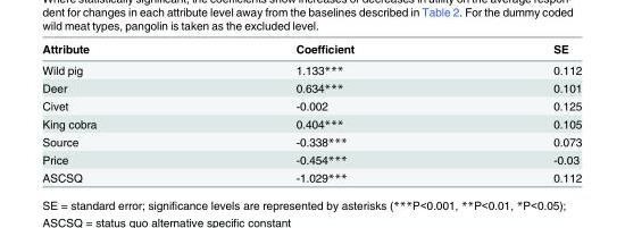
<table><thead><tr><td>Attribute</td><td>Coefficient</td><td>SE</td></tr></thead><tbody><tr><td>Wild pig</td><td>1.133***</td><td>0.112</td></tr><tr><td>Deer</td><td>0.634***</td><td>0.101</td></tr><tr><td>Civet</td><td>-0.002</td><td>0.125</td></tr><tr><td>King cobra</td><td>0.404***</td><td>0.105</td></tr><tr><td>Source</td><td>-0.338***</td><td>0.073</td></tr><tr><td>Price</td><td>-0.454***</td><td>-0.03</td></tr><tr><td>ASCSQ</td><td>-1.029***</td><td>0.112</td></tr></tbody></table>